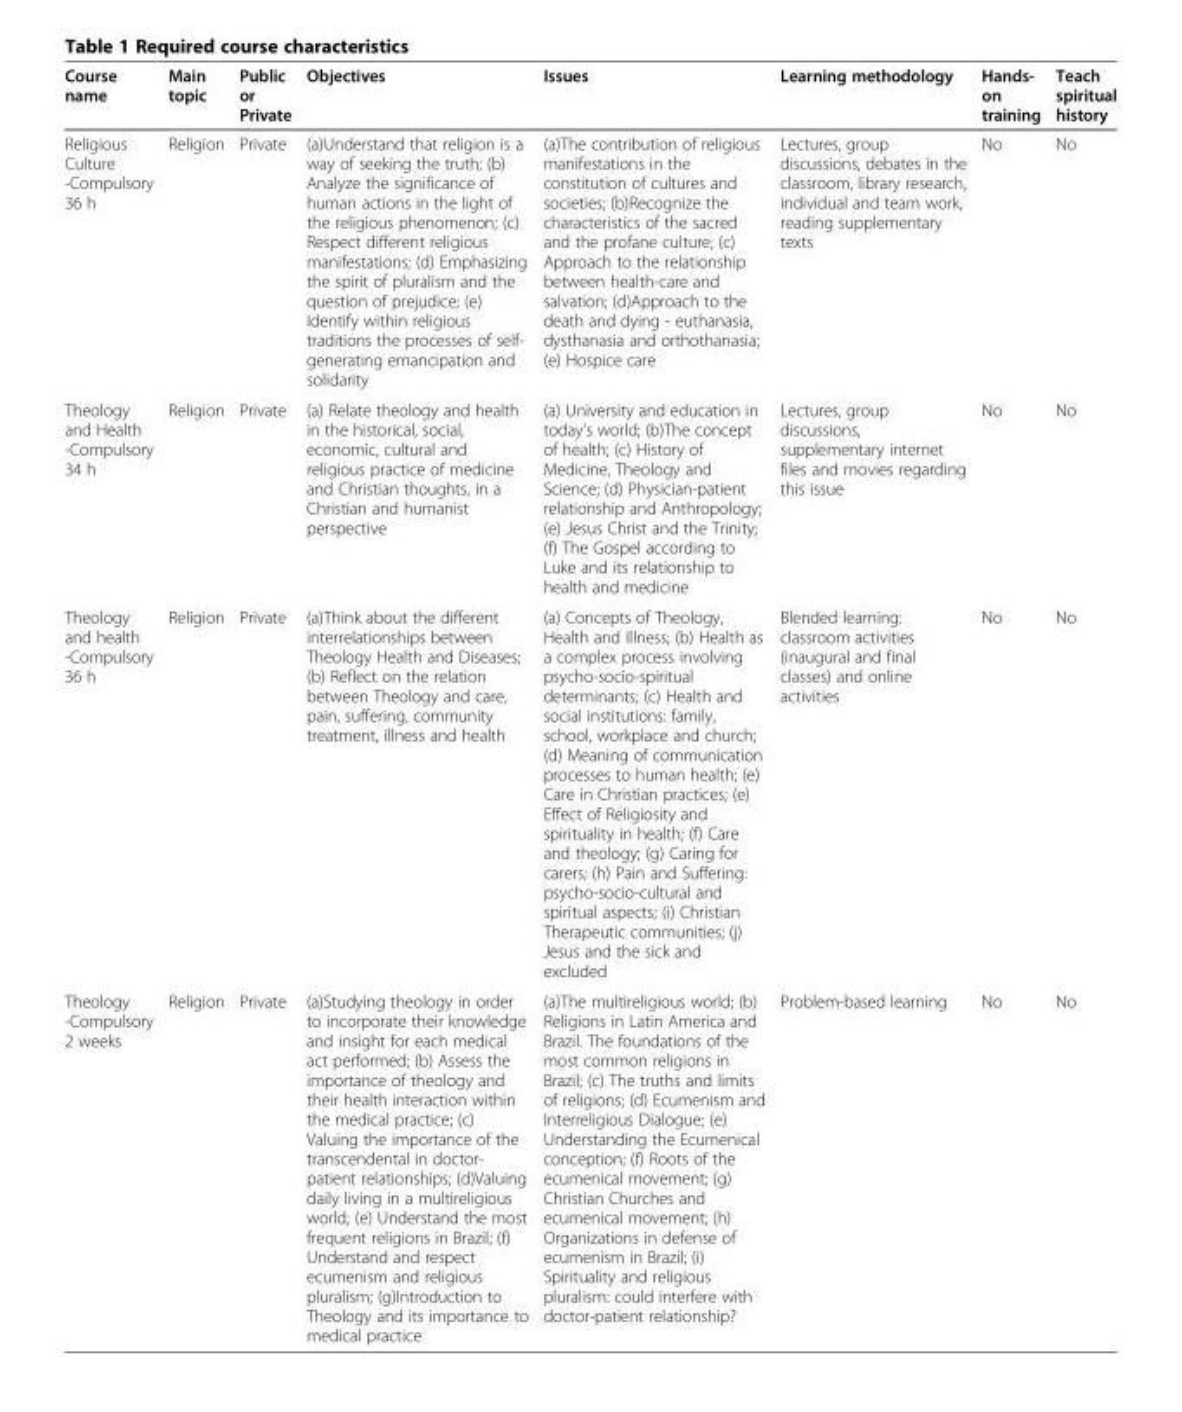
<table><thead><tr><td>Course name</td><td>Main topic</td><td>Public or Private</td><td>Objectives</td><td>Issues</td><td>Learning methodology</td><td>Hands- on training</td><td>Teach spiritual history</td></tr></thead><tbody><tr><td>Religious Culture -Compulsory 36 h</td><td>Religion</td><td>Private</td><td>(a)Understand that religion is a way of seeking the truth; (b) Analyze the significance of human actions in the light of the religious phenomenon; (c) Respect different religious manifestations; (d) Emphasizing the spirit of pluralism and the question of prejudice; (e) Identify within religious traditions the processes of self- generating emancipation and solidarity</td><td>(a)The contribution of religious manifestations in the constitution of cultures and societies; (b)Recognize the characteristics of the sacred and the profane culture; (c) Approach to the relationship between health-care and salvation; (d)Approach to the death and dying - euthanasia, dysthanasia and orthothanasia; (e) Hospice care</td><td>Lectures, group discussions, debates in the classroom, library research, individual and team work, reading supplementary texts</td><td>No</td><td>No</td></tr><tr><td>Theology and Health -Compulsory 34 h</td><td>Religion</td><td>Private</td><td>(a) Relate theology and health in the historical, social, economic, cultural and religious practice of medicine and Christian thoughts, in a Christian and humanist perspective</td><td>(a) University and education in today&#x27;s world; (b)The concept of health; (c) History of Medicine, Theology and Science; (d) Physician-patient relationship and Anthropology; (e) Jesus Christ and the Trinity; (f) The Gospel according to Luke and its relationship to health and medicine</td><td>Lectures, group discussions, supplementary internet files and movies regarding this issue</td><td>No</td><td>No</td></tr><tr><td>Theology and health -Compulsory 36 h</td><td>Religion</td><td>Private</td><td>(a)Think about the different interrelationships between Theology Health and Diseases; (b) Reflect on the relation between Theology and care, pain, suffering, community treatment, illness and health</td><td>(a) Concepts of Theology, Health and Illness; (b) Health as a complex process involving psycho-socio-spiritual determinants; (c) Health and social institutions: family, school, workplace and church; (d) Meaning of communication processes to human health; (e) Care in Christian practices; (e) Effect of Religiosity and spirituality in health; (f) Care and theology; (g) Caring for carers; (h) Pain and Suffering: psycho-socio-cultural and spiritual aspects; (i) Christian Therapeutic communities; (j) Jesus and the sick and excluded</td><td>Blended learning: classroom activities (inaugural and final classes) and online activities</td><td>No</td><td>No</td></tr><tr><td>Theology -Compulsory 2 weeks</td><td>Religion</td><td>Private</td><td>(a)Studying theology in order to incorporate their knowledge and insight for each medical act performed; (b) Assess the importance of theology and their health interaction within the medical practice; (c) Valuing the importance of the transcendental in doctor- patient relationships; (d)Valuing daily living in a multireligious world; (e) Understand the most frequent religions in Brazil; (f) Understand and respect ecumenism and religious pluralism; (g)Introduction to Theology and its importance to medical practice</td><td>(a)The multireligious world; (b) Religions in Latin America and Brazil. The foundations of the most common religions in Brazil; (c) The truths and limits of religions; (d) Ecumenism and Interreligious Dialogue; (e) Understanding the Ecumenical conception; (f) Roots of the ecumenical movement; (g) Christian Churches and ecumenical movement; (h) Organizations in defense of ecumenism in Brazil; (i) Spirituality and religious pluralism: could interfere with doctor-patient relationship?</td><td>Problem-based learning</td><td>No</td><td>No</td></tr></tbody></table>